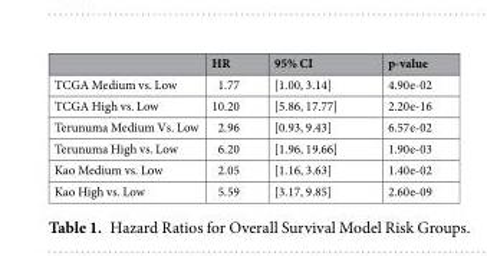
<table><thead><tr><td></td><td>HR</td><td>95% CI</td><td>p-value</td></tr></thead><tbody><tr><td>TCGA Medium vs. Low</td><td>1.77</td><td>[1.00, 3.14]</td><td>4.90e-02</td></tr><tr><td>TCGA High vs. Low</td><td>10.20</td><td>[5.86, 17.77]</td><td>2.20e-16</td></tr><tr><td>Terunuma Medium Vs. Low</td><td>2.96</td><td>[0.93, 9.43]</td><td>6.57e-02</td></tr><tr><td>Terunuma High vs. Low</td><td>6.20</td><td>[1.96, 19.66]</td><td>1.90e-03</td></tr><tr><td>Kao Medium vs. Low</td><td>2.05</td><td>[1.16, 3.63]</td><td>1.40e-02</td></tr><tr><td>Kao High vs. Low</td><td>5.59</td><td>[3.17, 9.85]</td><td>2.60e-09</td></tr></tbody></table>